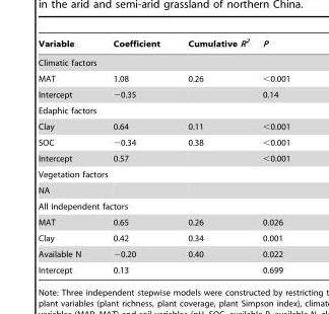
<table><thead><tr><td>Variable</td><td>Coefficient</td><td>Cumulative R<sup>2</sup></td><td>P</td></tr></thead><tbody><tr><td colspan="4">Climatic factors</td></tr><tr><td>MAT</td><td>1.08</td><td>0.26</td><td>&lt;0.001</td></tr><tr><td>Intercept</td><td>−0.35</td><td></td><td>0.14</td></tr><tr><td colspan="4">Edaphic factors</td></tr><tr><td>Clay</td><td>0.64</td><td>0.11</td><td>&lt;0.001</td></tr><tr><td>SOC</td><td>−0.34</td><td>0.38</td><td>&lt;0.001</td></tr><tr><td>Intercept</td><td>0.57</td><td></td><td>&lt;0.001</td></tr><tr><td colspan="4">Vegetation factors</td></tr><tr><td colspan="4">NA</td></tr><tr><td colspan="4">All independent factors</td></tr><tr><td>MAT</td><td>0.65</td><td>0.26</td><td>0.026</td></tr><tr><td>Clay</td><td>0.42</td><td>0.34</td><td>0.001</td></tr><tr><td>Available N</td><td>−0.20</td><td>0.40</td><td>0.022</td></tr><tr><td>Intercept</td><td>0.13</td><td></td><td>0.699</td></tr></tbody></table>